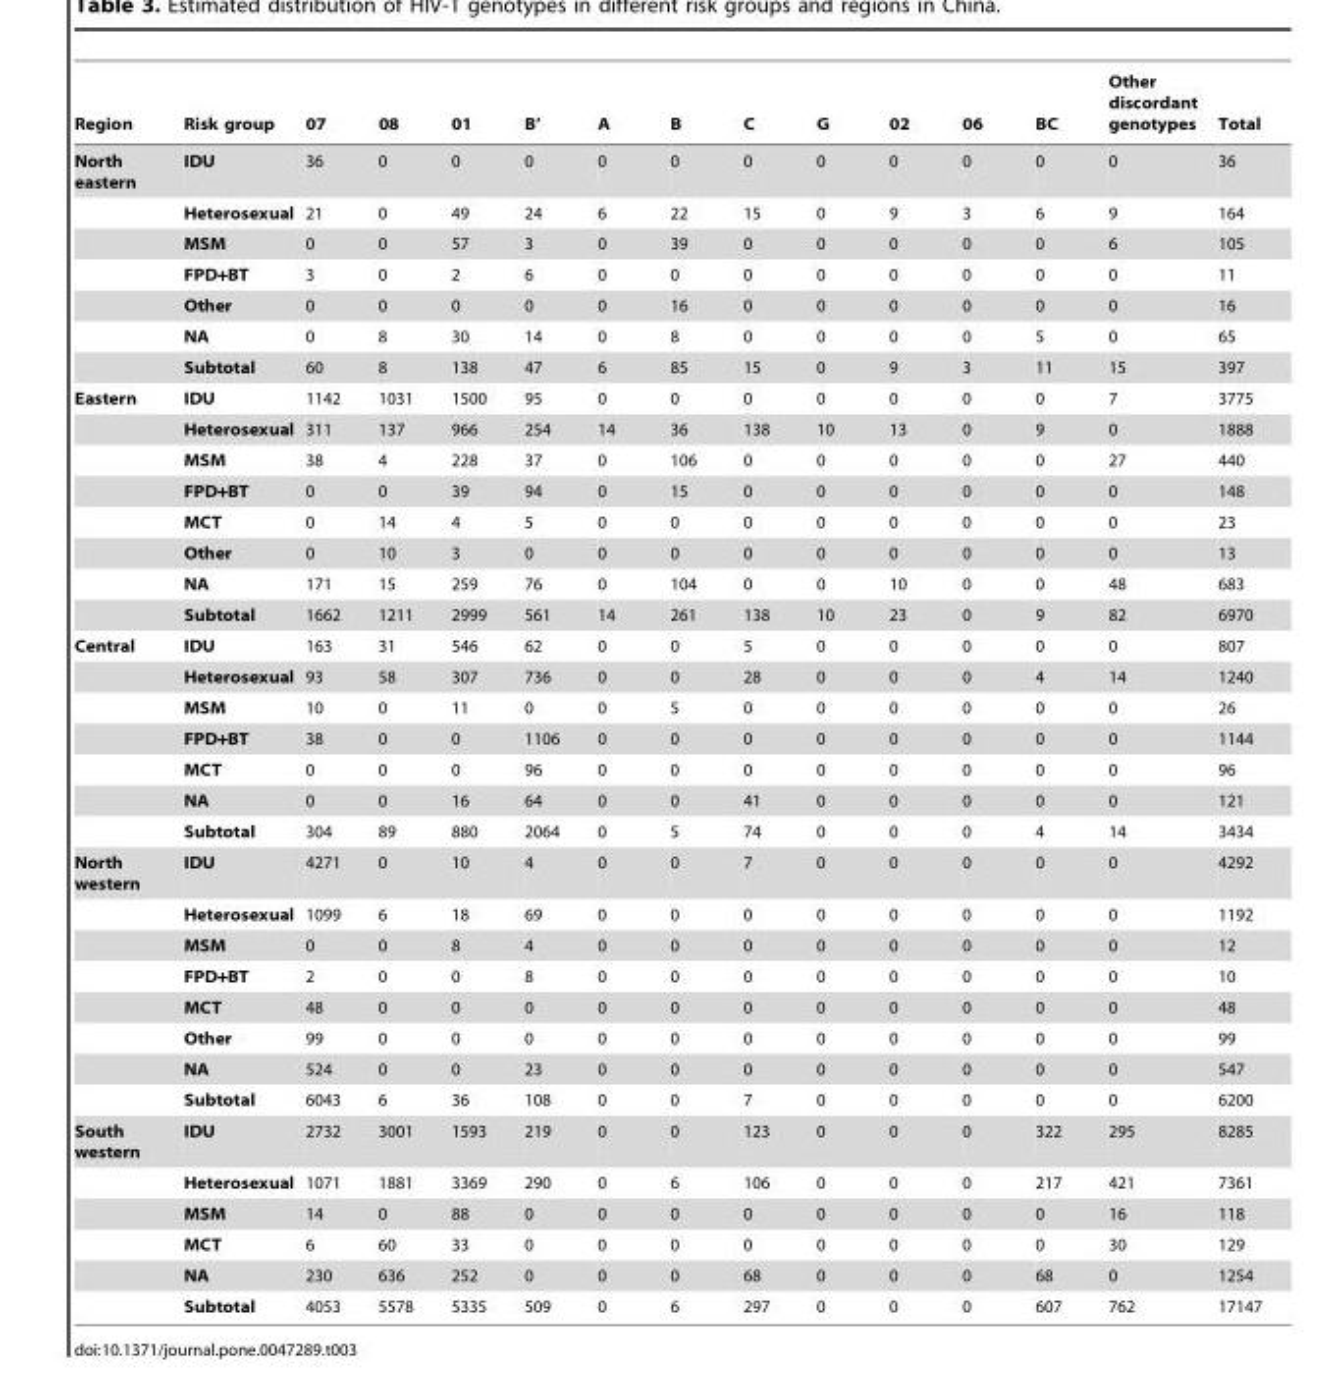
<table><thead><tr><td>Region</td><td>Risk group</td><td>07</td><td>08</td><td>01</td><td>B’</td><td>A</td><td>B</td><td>C</td><td>G</td><td>02</td><td>06</td><td>BC</td><td>Other discordant genotypes</td><td>Total</td></tr></thead><tbody><tr><td rowspan="7">North eastern</td><td>IDU</td><td>36</td><td>0</td><td>0</td><td>0</td><td>0</td><td>0</td><td>0</td><td>0</td><td>0</td><td>0</td><td>0</td><td>0</td><td>36</td></tr><tr><td>Heterosexual</td><td>21</td><td>0</td><td>49</td><td>24</td><td>6</td><td>22</td><td>15</td><td>0</td><td>9</td><td>3</td><td>6</td><td>9</td><td>164</td></tr><tr><td>MSM</td><td>0</td><td>0</td><td>57</td><td>3</td><td>0</td><td>39</td><td>0</td><td>0</td><td>0</td><td>0</td><td>0</td><td>6</td><td>105</td></tr><tr><td>FPD+BT</td><td>3</td><td>0</td><td>2</td><td>6</td><td>0</td><td>0</td><td>0</td><td>0</td><td>0</td><td>0</td><td>0</td><td>0</td><td>11</td></tr><tr><td>Other</td><td>0</td><td>0</td><td>0</td><td>0</td><td>0</td><td>16</td><td>0</td><td>0</td><td>0</td><td>0</td><td>0</td><td>0</td><td>16</td></tr><tr><td>NA</td><td>0</td><td>8</td><td>30</td><td>14</td><td>0</td><td>8</td><td>0</td><td>0</td><td>0</td><td>0</td><td>5</td><td>0</td><td>65</td></tr><tr><td>Subtotal</td><td>60</td><td>8</td><td>138</td><td>47</td><td>6</td><td>85</td><td>15</td><td>0</td><td>9</td><td>3</td><td>11</td><td>15</td><td>397</td></tr><tr><td rowspan="8">Eastern</td><td>IDU</td><td>1142</td><td>1031</td><td>1500</td><td>95</td><td>0</td><td>0</td><td>0</td><td>0</td><td>0</td><td>0</td><td>0</td><td>7</td><td>3775</td></tr><tr><td>Heterosexual</td><td>311</td><td>137</td><td>966</td><td>254</td><td>14</td><td>36</td><td>138</td><td>10</td><td>13</td><td>0</td><td>9</td><td>0</td><td>1888</td></tr><tr><td>MSM</td><td>38</td><td>4</td><td>228</td><td>37</td><td>0</td><td>106</td><td>0</td><td>0</td><td>0</td><td>0</td><td>0</td><td>27</td><td>440</td></tr><tr><td>FPD+BT</td><td>0</td><td>0</td><td>39</td><td>94</td><td>0</td><td>15</td><td>0</td><td>0</td><td>0</td><td>0</td><td>0</td><td>0</td><td>148</td></tr><tr><td>MCT</td><td>0</td><td>14</td><td>4</td><td>5</td><td>0</td><td>0</td><td>0</td><td>0</td><td>0</td><td>0</td><td>0</td><td>0</td><td>23</td></tr><tr><td>Other</td><td>0</td><td>10</td><td>3</td><td>0</td><td>0</td><td>0</td><td>0</td><td>0</td><td>0</td><td>0</td><td>0</td><td>0</td><td>13</td></tr><tr><td>NA</td><td>171</td><td>15</td><td>259</td><td>76</td><td>0</td><td>104</td><td>0</td><td>0</td><td>10</td><td>0</td><td>0</td><td>48</td><td>683</td></tr><tr><td>Subtotal</td><td>1662</td><td>1211</td><td>2999</td><td>561</td><td>14</td><td>261</td><td>138</td><td>10</td><td>23</td><td>0</td><td>9</td><td>82</td><td>6970</td></tr><tr><td rowspan="7">Central</td><td>IDU</td><td>163</td><td>31</td><td>546</td><td>62</td><td>0</td><td>0</td><td>5</td><td>0</td><td>0</td><td>0</td><td>0</td><td>0</td><td>807</td></tr><tr><td>Heterosexual</td><td>93</td><td>58</td><td>307</td><td>736</td><td>0</td><td>0</td><td>28</td><td>0</td><td>0</td><td>0</td><td>4</td><td>14</td><td>1240</td></tr><tr><td>MSM</td><td>10</td><td>0</td><td>11</td><td>0</td><td>0</td><td>5</td><td>0</td><td>0</td><td>0</td><td>0</td><td>0</td><td>0</td><td>26</td></tr><tr><td>FPD+BT</td><td>38</td><td>0</td><td>0</td><td>1106</td><td>0</td><td>0</td><td>0</td><td>0</td><td>0</td><td>0</td><td>0</td><td>0</td><td>1144</td></tr><tr><td>MCT</td><td>0</td><td>0</td><td>0</td><td>96</td><td>0</td><td>0</td><td>0</td><td>0</td><td>0</td><td>0</td><td>0</td><td>0</td><td>96</td></tr><tr><td>NA</td><td>0</td><td>0</td><td>16</td><td>64</td><td>0</td><td>0</td><td>41</td><td>0</td><td>0</td><td>0</td><td>0</td><td>0</td><td>121</td></tr><tr><td>Subtotal</td><td>304</td><td>89</td><td>880</td><td>2064</td><td>0</td><td>5</td><td>74</td><td>0</td><td>0</td><td>0</td><td>4</td><td>14</td><td>3434</td></tr><tr><td rowspan="8">North western</td><td>IDU</td><td>4271</td><td>0</td><td>10</td><td>4</td><td>0</td><td>0</td><td>7</td><td>0</td><td>0</td><td>0</td><td>0</td><td>0</td><td>4292</td></tr><tr><td>Heterosexual</td><td>1099</td><td>6</td><td>18</td><td>69</td><td>0</td><td>0</td><td>0</td><td>0</td><td>0</td><td>0</td><td>0</td><td>0</td><td>1192</td></tr><tr><td>MSM</td><td>0</td><td>0</td><td>8</td><td>4</td><td>0</td><td>0</td><td>0</td><td>0</td><td>0</td><td>0</td><td>0</td><td>0</td><td>12</td></tr><tr><td>FPD+BT</td><td>2</td><td>0</td><td>0</td><td>8</td><td>0</td><td>0</td><td>0</td><td>0</td><td>0</td><td>0</td><td>0</td><td>0</td><td>10</td></tr><tr><td>MCT</td><td>48</td><td>0</td><td>0</td><td>0</td><td>0</td><td>0</td><td>0</td><td>0</td><td>0</td><td>0</td><td>0</td><td>0</td><td>48</td></tr><tr><td>Other</td><td>99</td><td>0</td><td>0</td><td>0</td><td>0</td><td>0</td><td>0</td><td>0</td><td>0</td><td>0</td><td>0</td><td>0</td><td>99</td></tr><tr><td>NA</td><td>524</td><td>0</td><td>0</td><td>23</td><td>0</td><td>0</td><td>0</td><td>0</td><td>0</td><td>0</td><td>0</td><td>0</td><td>547</td></tr><tr><td>Subtotal</td><td>6043</td><td>6</td><td>36</td><td>108</td><td>0</td><td>0</td><td>7</td><td>0</td><td>0</td><td>0</td><td>0</td><td>0</td><td>6200</td></tr><tr><td rowspan="6">South western</td><td>IDU</td><td>2732</td><td>3001</td><td>1593</td><td>219</td><td>0</td><td>0</td><td>123</td><td>0</td><td>0</td><td>0</td><td>322</td><td>295</td><td>8285</td></tr><tr><td>Heterosexual</td><td>1071</td><td>1881</td><td>3369</td><td>290</td><td>0</td><td>6</td><td>106</td><td>0</td><td>0</td><td>0</td><td>217</td><td>421</td><td>7361</td></tr><tr><td>MSM</td><td>14</td><td>0</td><td>88</td><td>0</td><td>0</td><td>0</td><td>0</td><td>0</td><td>0</td><td>0</td><td>0</td><td>16</td><td>118</td></tr><tr><td>MCT</td><td>6</td><td>60</td><td>33</td><td>0</td><td>0</td><td>0</td><td>0</td><td>0</td><td>0</td><td>0</td><td>0</td><td>30</td><td>129</td></tr><tr><td>NA</td><td>230</td><td>636</td><td>252</td><td>0</td><td>0</td><td>0</td><td>68</td><td>0</td><td>0</td><td>0</td><td>68</td><td>0</td><td>1254</td></tr><tr><td>Subtotal</td><td>4053</td><td>5578</td><td>5335</td><td>509</td><td>0</td><td>6</td><td>297</td><td>0</td><td>0</td><td>0</td><td>607</td><td>762</td><td>17147</td></tr></tbody></table>